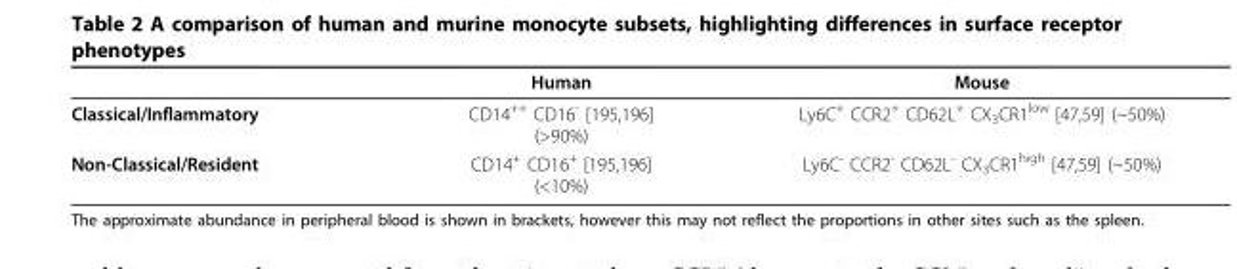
<table><thead><tr><td></td><td>Human</td><td>Mouse</td></tr></thead><tbody><tr><td>Classical/Inflammatory</td><td>CD14<sup>++</sup> CD16<sup>-</sup> [195,196] (&gt;90%)</td><td>Ly6C<sup>+</sup> CCR2<sup>+</sup> CD62L<sup>+</sup> CX<sub>3</sub>CR1<sup>low</sup> [47,59] (~50%)</td></tr><tr><td>Non-Classical/Resident</td><td>CD14<sup>+</sup> CD16<sup>+</sup> [195,196] (&lt;10%)</td><td>Ly6C<sup>-</sup> CCR2<sup>-</sup> CD62L<sup>-</sup> CX<sub>3</sub>CR1<sup>high</sup> [47,59] (~50%)</td></tr></tbody></table>